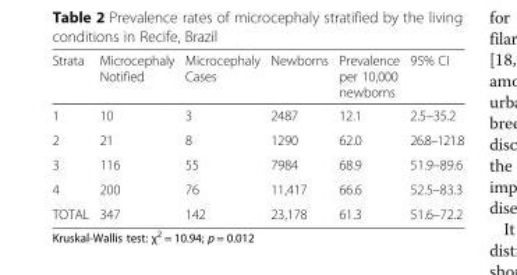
<table><thead><tr><td>Strata</td><td>Microcephaly Notified</td><td>Microcephaly Cases</td><td>Newborns</td><td>Prevalence per 10,000 newborns</td><td>95% CI</td></tr></thead><tbody><tr><td>1</td><td>10</td><td>3</td><td>2487</td><td>12.1</td><td>2.5–35.2</td></tr><tr><td>2</td><td>21</td><td>8</td><td>1290</td><td>62.0</td><td>26.8–121.8</td></tr><tr><td>3</td><td>116</td><td>55</td><td>7984</td><td>68.9</td><td>51.9–89.6</td></tr><tr><td>4</td><td>200</td><td>76</td><td>11,417</td><td>66.6</td><td>52.5–83.3</td></tr><tr><td>TOTAL</td><td>347</td><td>142</td><td>23,178</td><td>61.3</td><td>51.6–72.2</td></tr></tbody></table>